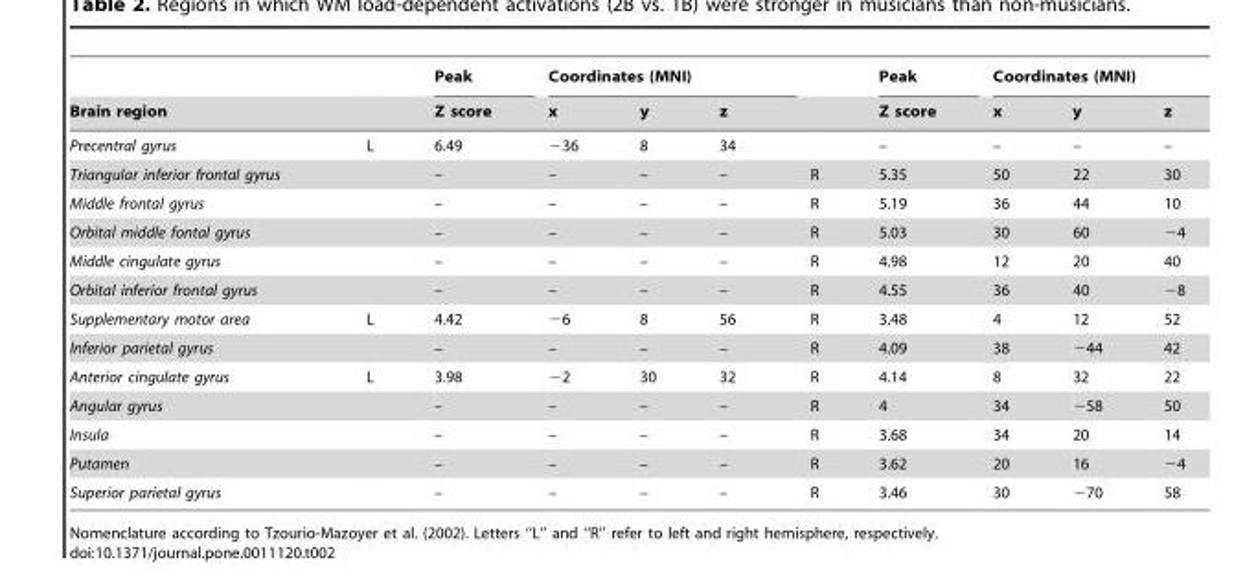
<table><thead><tr><td rowspan="2">Brain region</td><td rowspan="2"></td><td rowspan="2">Peak Z score</td><td colspan="3">Coordinates (MNI)</td><td rowspan="2"></td><td rowspan="2">Peak Z score</td><td colspan="3">Coordinates (MNI)</td></tr><tr><td>x</td><td>y</td><td>z</td><td>x</td><td>y</td><td>z</td></tr></thead><tbody><tr><td>Precentral gyrus</td><td>L</td><td>6.49</td><td>−36</td><td>8</td><td>34</td><td></td><td>–</td><td>–</td><td>–</td><td>–</td></tr><tr><td>Triangular inferior frontal gyrus</td><td></td><td>–</td><td>–</td><td>–</td><td>–</td><td>R</td><td>5.35</td><td>50</td><td>22</td><td>30</td></tr><tr><td>Middle frontal gyrus</td><td></td><td>–</td><td>–</td><td>–</td><td>–</td><td>R</td><td>5.19</td><td>36</td><td>44</td><td>10</td></tr><tr><td>Orbital middle fontal gyrus</td><td></td><td>–</td><td>–</td><td>–</td><td>–</td><td>R</td><td>5.03</td><td>30</td><td>60</td><td>−4</td></tr><tr><td>Middle cingulate gyrus</td><td></td><td>–</td><td>–</td><td>–</td><td>–</td><td>R</td><td>4.98</td><td>12</td><td>20</td><td>40</td></tr><tr><td>Orbital inferior frontal gyrus</td><td></td><td>–</td><td>–</td><td>–</td><td>–</td><td>R</td><td>4.55</td><td>36</td><td>40</td><td>−8</td></tr><tr><td>Supplementary motor area</td><td>L</td><td>4.42</td><td>−6</td><td>8</td><td>56</td><td>R</td><td>3.48</td><td>4</td><td>12</td><td>52</td></tr><tr><td>Inferior parietal gyrus</td><td></td><td>–</td><td>–</td><td>–</td><td>–</td><td>R</td><td>4.09</td><td>38</td><td>−44</td><td>42</td></tr><tr><td>Anterior cingulate gyrus</td><td>L</td><td>3.98</td><td>−2</td><td>30</td><td>32</td><td>R</td><td>4.14</td><td>8</td><td>32</td><td>22</td></tr><tr><td>Angular gyrus</td><td></td><td>–</td><td>–</td><td>–</td><td>–</td><td>R</td><td>4</td><td>34</td><td>−58</td><td>50</td></tr><tr><td>Insula</td><td></td><td>–</td><td>–</td><td>–</td><td>–</td><td>R</td><td>3.68</td><td>34</td><td>20</td><td>14</td></tr><tr><td>Putamen</td><td></td><td>–</td><td>–</td><td>–</td><td>–</td><td>R</td><td>3.62</td><td>20</td><td>16</td><td>−4</td></tr><tr><td>Superior parietal gyrus</td><td></td><td>–</td><td>–</td><td>–</td><td>–</td><td>R</td><td>3.46</td><td>30</td><td>−70</td><td>58</td></tr></tbody></table>